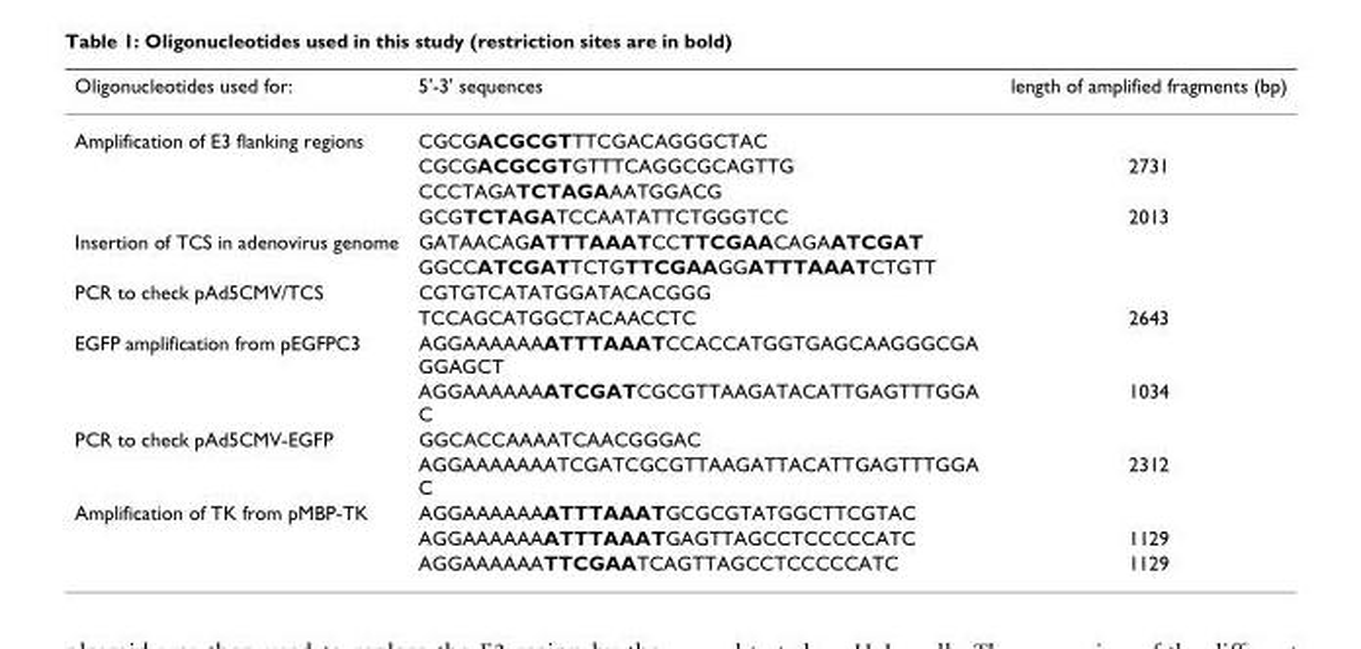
<table><thead><tr><td>Oligonucleotides used for:</td><td>5&#x27;-3&#x27; sequences</td><td>length of amplified fragments (bp)</td></tr></thead><tbody><tr><td rowspan="4">Amplification of E3 flanking regions</td><td>CGCGACGCGTTTCGACAGGGCTAC</td><td></td></tr><tr><td>CGCGACGCGTGTTTCAGGCGCAGTTG</td><td>2731</td></tr><tr><td>CCCTAGATCTAGAAATGGACG</td><td></td></tr><tr><td>GCGTCTAGATCCAATATTCTGGGTCC</td><td>2013</td></tr><tr><td rowspan="2">Insertion of TCS in adenovirus genome</td><td>GATAACAGATTTAAATCCTTCGAACAGAATCGAT</td><td></td></tr><tr><td>GGCCATCGATTCTGTTCGAAGGATTTAAATCTGTT</td><td></td></tr><tr><td rowspan="2">PCR to check pAd5CMV/TCS</td><td>CGTGTCATATGGATACACGGG</td><td></td></tr><tr><td>TCCAGCATGGCTACAACCTC</td><td>2643</td></tr><tr><td rowspan="2">EGFP amplification from pEGFPC3</td><td>AGGAAAAAAATTTAAATCCACCATGGTGAGCAAGGGCGA GGAGCT</td><td></td></tr><tr><td>AGGAAAAAAATCGATCGCGTTAAGATACATTGAGTTTGGA C</td><td>1034</td></tr><tr><td rowspan="2">PCR to check pAd5CMV-EGFP</td><td>GGCACCAAAATCAACGGGAC</td><td></td></tr><tr><td>AGGAAAAAAATCGATCGCGTTAAGATTACATTGAGTTTGGA C</td><td>2312</td></tr><tr><td rowspan="3">Amplification of TK from pMBP-TK</td><td>AGGAAAAAAATTTAAATGCGCGTATGGCTTCGTAC</td><td></td></tr><tr><td>AGGAAAAAAATTTAAATGAGTTAGCCTCCCCCATC</td><td>1129</td></tr><tr><td>AGGAAAAAATTCGAATCAGTTAGCCTCCCCCATC</td><td>1129</td></tr></tbody></table>